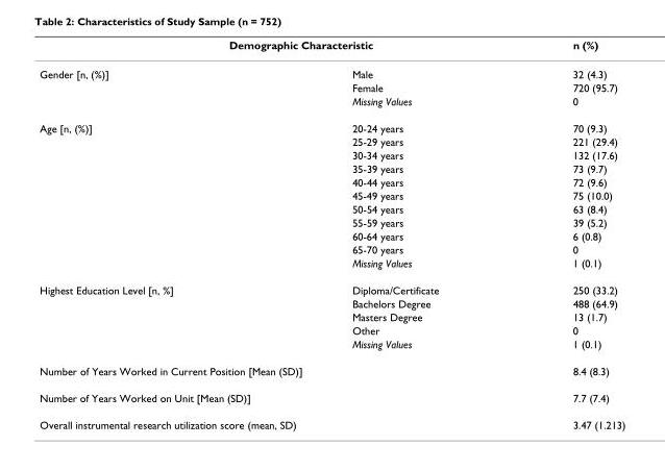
<table><thead><tr><td colspan="2">Demographic Characteristic</td><td rowspan="2">n (%) 32 (4.3)</td></tr><tr><td>Gender [n, (%)]</td><td>Male</td></tr></thead><tbody><tr><td></td><td>Female</td><td>720 (95.7)</td></tr><tr><td></td><td>Missing Values</td><td>0</td></tr><tr><td rowspan="11">Age [n, (%)]</td><td>20-24 years</td><td>70 (9.3)</td></tr><tr><td>25-29 years</td><td>221 (29.4)</td></tr><tr><td>30-34 years</td><td>132 (17.6)</td></tr><tr><td>35-39 years</td><td>73 (9.7)</td></tr><tr><td>40-44 years</td><td>72 (9.6)</td></tr><tr><td>45-49 years</td><td>75 (10.0)</td></tr><tr><td>50-54 years</td><td>63 (8.4)</td></tr><tr><td>55-59 years</td><td>39 (5.2)</td></tr><tr><td>60-64 years</td><td>6 (0.8)</td></tr><tr><td>65-70 years</td><td>0</td></tr><tr><td>Missing Values</td><td>1 (0.1)</td></tr><tr><td rowspan="5">Highest Education Level [n, %]</td><td>Diploma/Certificate</td><td>250 (33.2)</td></tr><tr><td>Bachelors Degree</td><td>488 (64.9)</td></tr><tr><td>Masters Degree</td><td>13 (1.7)</td></tr><tr><td>Other</td><td>0</td></tr><tr><td>Missing Values</td><td>1 (0.1)</td></tr><tr><td colspan="2">Number of Years Worked in Current Position [Mean (SD)]</td><td>8.4 (8.3)</td></tr><tr><td colspan="2">Number of Years Worked on Unit [Mean (SD)]</td><td>7.7 (7.4)</td></tr><tr><td colspan="2">Overall instrumental research utilization score (mean, SD)</td><td>3.47 (1.213)</td></tr></tbody></table>